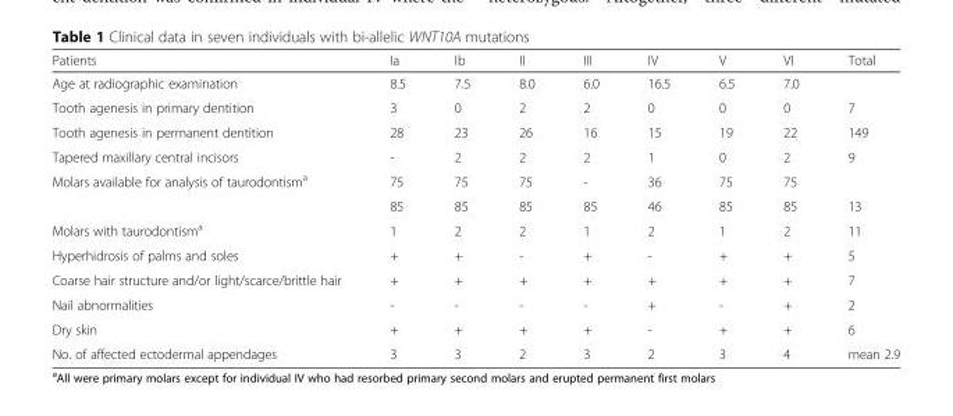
<table><thead><tr><td>Patients</td><td>Ia</td><td>Ib</td><td>II</td><td>III</td><td>IV</td><td>V</td><td>VI</td><td>Total</td></tr></thead><tbody><tr><td>Age at radiographic examination</td><td>8.5</td><td>7.5</td><td>8.0</td><td>6.0</td><td>16.5</td><td>6.5</td><td>7.0</td><td></td></tr><tr><td>Tooth agenesis in primary dentition</td><td>3</td><td>0</td><td>2</td><td>2</td><td>0</td><td>0</td><td>0</td><td>7</td></tr><tr><td>Tooth agenesis in permanent dentition</td><td>28</td><td>23</td><td>26</td><td>16</td><td>15</td><td>19</td><td>22</td><td>149</td></tr><tr><td>Tapered maxillary central incisors</td><td>-</td><td>2</td><td>2</td><td>2</td><td>1</td><td>0</td><td>2</td><td>9</td></tr><tr><td rowspan="2">Molars available for analysis of taurodontism<sup>a</sup></td><td>75</td><td>75</td><td>75</td><td>-</td><td>36</td><td>75</td><td>75</td><td></td></tr><tr><td>85</td><td>85</td><td>85</td><td>85</td><td>46</td><td>85</td><td>85</td><td>13</td></tr><tr><td>Molars with taurodontism<sup>a</sup></td><td>1</td><td>2</td><td>2</td><td>1</td><td>2</td><td>1</td><td>2</td><td>11</td></tr><tr><td>Hyperhidrosis of palms and soles</td><td>+</td><td>+</td><td>-</td><td>+</td><td>-</td><td>+</td><td>+</td><td>5</td></tr><tr><td>Coarse hair structure and/or light/scarce/brittle hair</td><td>+</td><td>+</td><td>+</td><td>+</td><td>+</td><td>+</td><td>+</td><td>7</td></tr><tr><td>Nail abnormalities</td><td>-</td><td>-</td><td>-</td><td>-</td><td>+</td><td>-</td><td>+</td><td>2</td></tr><tr><td>Dry skin</td><td>+</td><td>+</td><td>+</td><td>+</td><td>-</td><td>+</td><td>+</td><td>6</td></tr><tr><td>No. of affected ectodermal appendages</td><td>3</td><td>3</td><td>2</td><td>3</td><td>2</td><td>3</td><td>4</td><td>mean 2.9</td></tr></tbody></table>